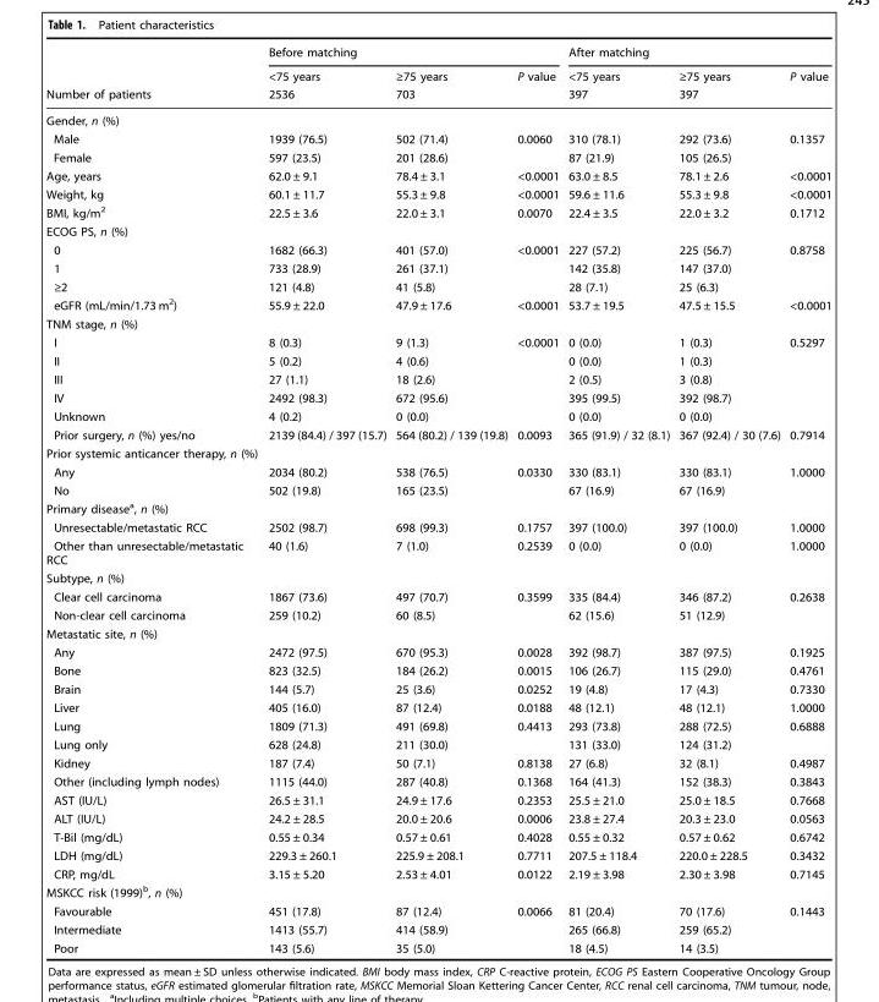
<table><thead><tr><td rowspan="3">Number of patients</td><td colspan="3">Before matching</td><td colspan="3">After matching</td></tr><tr><td rowspan="2">&lt;75 years 2536</td><td rowspan="2">≥75 years 703</td><td rowspan="2">P value</td><td rowspan="2">&lt;75 years 397</td><td rowspan="2">≥75 years 397</td><td rowspan="2">P value</td></tr><tr></tr></thead><tbody><tr><td colspan="7">Gender, n (%)</td></tr><tr><td>Male</td><td>1939 (76.5)</td><td>502 (71.4)</td><td rowspan="2">0.0060</td><td>310 (78.1)</td><td>292 (73.6)</td><td>0.1357</td></tr><tr><td>Female</td><td>597 (23.5)</td><td>201 (28.6)</td><td>87 (21.9)</td><td>105 (26.5)</td><td></td></tr><tr><td>Age, years</td><td>62.0 ± 9.1</td><td>78.4 ± 3.1</td><td>&lt;0.0001</td><td>63.0 ± 8.5</td><td>78.1 ± 2.6</td><td>&lt;0.0001</td></tr><tr><td>Weight, kg</td><td>60.1 ± 11.7</td><td>55.3 ± 9.8</td><td>&lt;0.0001</td><td>59.6 ± 11.6</td><td>55.3 ± 9.8</td><td>&lt;0.0001</td></tr><tr><td>BMI, kg/m<sup>2</sup></td><td>22.5 ± 3.6</td><td>22.0 ± 3.1</td><td>0.0070</td><td>22.4 ± 3.5</td><td>22.0 ± 3.2</td><td>0.1712</td></tr><tr><td colspan="7">ECOG PS, n (%)</td></tr><tr><td>0</td><td>1682 (66.3)</td><td>401 (57.0)</td><td rowspan="3">&lt;0.0001</td><td>227 (57.2)</td><td>225 (56.7)</td><td rowspan="3">0.8758</td></tr><tr><td>1</td><td>733 (28.9)</td><td>261 (37.1)</td><td>142 (35.8)</td><td>147 (37.0)</td></tr><tr><td>≥2</td><td>121 (4.8)</td><td>41 (5.8)</td><td>28 (7.1)</td><td>25 (6.3)</td></tr><tr><td>eGFR (mL/min/1.73 m<sup>2</sup>)</td><td>55.9 ± 22.0</td><td>47.9 ± 17.6</td><td>&lt;0.0001</td><td>53.7 ± 19.5</td><td>47.5 ± 15.5</td><td>&lt;0.0001</td></tr><tr><td colspan="7">TNM stage, n (%)</td></tr><tr><td>I</td><td>8 (0.3)</td><td>9 (1.3)</td><td rowspan="5">&lt;0.0001</td><td>0 (0.0)</td><td>1 (0.3)</td><td rowspan="5">0.5297</td></tr><tr><td>II</td><td>5 (0.2)</td><td>4 (0.6)</td><td>0 (0.0)</td><td>1 (0.3)</td></tr><tr><td>III</td><td>27 (1.1)</td><td>18 (2.6)</td><td>2 (0.5)</td><td>3 (0.8)</td></tr><tr><td>IV</td><td>2492 (98.3)</td><td>672 (95.6)</td><td>395 (99.5)</td><td>392 (98.7)</td></tr><tr><td>Unknown</td><td>4 (0.2)</td><td>0 (0.0)</td><td>0 (0.0)</td><td>0 (0.0)</td></tr><tr><td>Prior surgery, n (%) yes/no</td><td>2139 (84.4) / 397 (15.7)</td><td>564 (80.2) / 139 (19.8)</td><td>0.0093</td><td>365 (91.9) / 32 (8.1)</td><td>367 (92.4) / 30 (7.6)</td><td>0.7914</td></tr><tr><td colspan="7">Prior systemic anticancer therapy, n (%)</td></tr><tr><td>Any</td><td>2034 (80.2)</td><td>538 (76.5)</td><td rowspan="2">0.0330</td><td>330 (83.1)</td><td>330 (83.1)</td><td rowspan="2">1.0000</td></tr><tr><td>No</td><td>502 (19.8)</td><td>165 (23.5)</td><td>67 (16.9)</td><td>67 (16.9)</td></tr><tr><td colspan="7">Primary disease<sup>a</sup>, n (%)</td></tr><tr><td>Unresectable/metastatic RCC</td><td>2502 (98.7)</td><td>698 (99.3)</td><td>0.1757</td><td>397 (100.0)</td><td>397 (100.0)</td><td>1.0000</td></tr><tr><td>Other than unresectable/metastatic RCC</td><td>40 (1.6)</td><td>7 (1.0)</td><td>0.2539</td><td>0 (0.0)</td><td>0 (0.0)</td><td>1.0000</td></tr><tr><td colspan="7">Subtype, n (%)</td></tr><tr><td>Clear cell carcinoma</td><td>1867 (73.6)</td><td>497 (70.7)</td><td rowspan="2">0.3599</td><td>335 (84.4)</td><td>346 (87.2)</td><td rowspan="2">0.2638</td></tr><tr><td>Non-clear cell carcinoma</td><td>259 (10.2)</td><td>60 (8.5)</td><td>62 (15.6)</td><td>51 (12.9)</td></tr><tr><td colspan="7">Metastatic site, n (%)</td></tr><tr><td>Any</td><td>2472 (97.5)</td><td>670 (95.3)</td><td>0.0028</td><td>392 (98.7)</td><td>387 (97.5)</td><td>0.1925</td></tr><tr><td>Bone</td><td>823 (32.5)</td><td>184 (26.2)</td><td>0.0015</td><td>106 (26.7)</td><td>115 (29.0)</td><td>0.4761</td></tr><tr><td>Brain</td><td>144 (5.7)</td><td>25 (3.6)</td><td>0.0252</td><td>19 (4.8)</td><td>17 (4.3)</td><td>0.7330</td></tr><tr><td>Liver</td><td>405 (16.0)</td><td>87 (12.4)</td><td>0.0188</td><td>48 (12.1)</td><td>48 (12.1)</td><td>1.0000</td></tr><tr><td>Lung</td><td>1809 (71.3)</td><td>491 (69.8)</td><td rowspan="2">0.4413</td><td>293 (73.8)</td><td>288 (72.5)</td><td rowspan="2">0.6888</td></tr><tr><td>Lung only</td><td>628 (24.8)</td><td>211 (30.0)</td><td>131 (33.0)</td><td>124 (31.2)</td></tr><tr><td>Kidney</td><td>187 (7.4)</td><td>50 (7.1)</td><td>0.8138</td><td>27 (6.8)</td><td>32 (8.1)</td><td>0.4987</td></tr><tr><td>Other (including lymph nodes)</td><td>1115 (44.0)</td><td>287 (40.8)</td><td>0.1368</td><td>164 (41.3)</td><td>152 (38.3)</td><td>0.3843</td></tr><tr><td>AST (IU/L)</td><td>26.5 ± 31.1</td><td>24.9 ± 17.6</td><td>0.2353</td><td>25.5 ± 21.0</td><td>25.0 ± 18.5</td><td>0.7668</td></tr><tr><td>ALT (IU/L)</td><td>24.2 ± 28.5</td><td>20.0 ± 20.6</td><td>0.0006</td><td>23.8 ± 27.4</td><td>20.3 ± 23.0</td><td>0.0563</td></tr><tr><td>T-Bil (mg/dL)</td><td>0.55 ± 0.34</td><td>0.57 ± 0.61</td><td>0.4028</td><td>0.55 ± 0.32</td><td>0.57 ± 0.62</td><td>0.6742</td></tr><tr><td>LDH (mg/dL)</td><td>229.3 ± 260.1</td><td>225.9 ± 208.1</td><td>0.7711</td><td>207.5 ± 118.4</td><td>220.0 ± 228.5</td><td>0.3432</td></tr><tr><td>CRP, mg/dL</td><td>3.15 ± 5.20</td><td>2.53 ± 4.01</td><td>0.0122</td><td>2.19 ± 3.98</td><td>2.30 ± 3.98</td><td>0.7145</td></tr><tr><td colspan="7">MSKCC risk (1999)<sup>b</sup>, n (%)</td></tr><tr><td>Favourable</td><td>451 (17.8)</td><td>87 (12.4)</td><td rowspan="3">0.0066</td><td>81 (20.4)</td><td>70 (17.6)</td><td rowspan="3">0.1443</td></tr><tr><td>Intermediate</td><td>1413 (55.7)</td><td>414 (58.9)</td><td>265 (66.8)</td><td>259 (65.2)</td></tr><tr><td>Poor</td><td>143 (5.6)</td><td>35 (5.0)</td><td>18 (4.5)</td><td>14 (3.5)</td></tr></tbody></table>